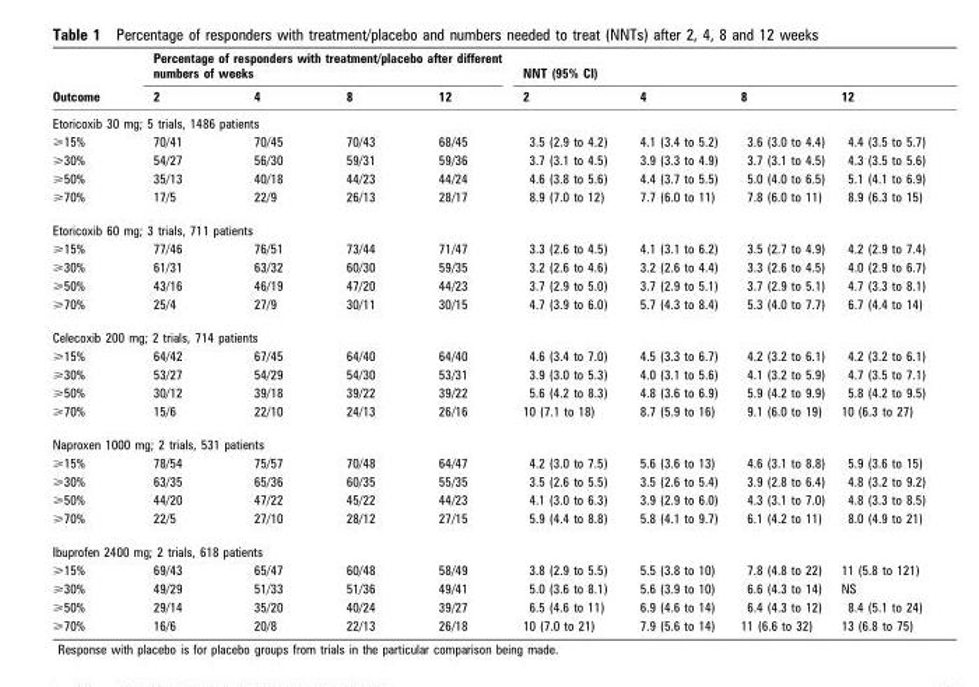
<table><thead><tr><td rowspan="2">Outcome</td><td colspan="4">Percentage of responders with treatment/placebo after different numbers of weeks</td><td colspan="4">NNT (95% CI)</td></tr><tr><td>2</td><td>4</td><td>8</td><td>12</td><td>2</td><td>4</td><td>8</td><td>12</td></tr></thead><tbody><tr><td colspan="9">Etoricoxib 30 mg; 5 trials, 1486 patients</td></tr><tr><td>&gt;15%</td><td>70/41</td><td>70/45</td><td>70/43</td><td>68/45</td><td>3.5 (2.9 to 4.2)</td><td>4.1 (3.4 to 5.2)</td><td>3.6 (3.0 to 4.4)</td><td>4.4 (3.5 to 5.7)</td></tr><tr><td>&gt;30%</td><td>54/27</td><td>56/30</td><td>59/31</td><td>59/36</td><td>3.7 (3.1 to 4.5)</td><td>3.9 (3.3 to 4.9)</td><td>3.7 (3.1 to 4.5)</td><td>4.3 (3.5 to 5.6)</td></tr><tr><td>&gt;50%</td><td>35/13</td><td>40/18</td><td>44/23</td><td>44/24</td><td>4.6 (3.8 to 5.6)</td><td>4.4 (3.7 to 5.5)</td><td>5.0 (4.0 to 6.5)</td><td>5.1 (4.1 to 6.9)</td></tr><tr><td>&gt;70%</td><td>17/5</td><td>22/9</td><td>26/13</td><td>28/17</td><td>8.9 (7.0 to 12)</td><td>7.7 (6.0 to 11)</td><td>7.8 (6.0 to 11)</td><td>8.9 (6.3 to 15)</td></tr><tr><td colspan="9">Etoricoxib 60 mg; 3 trials, 711 patients</td></tr><tr><td>&gt;15%</td><td>77/46</td><td>76/51</td><td>73/44</td><td>71/47</td><td>3.3 (2.6 to 4.5)</td><td>4.1 (3.1 to 6.2)</td><td>3.5 (2.7 to 4.9)</td><td>4.2 (2.9 to 7.4)</td></tr><tr><td>&gt;30%</td><td>61/31</td><td>63/32</td><td>60/30</td><td>59/35</td><td>3.2 (2.6 to 4.6)</td><td>3.2 (2.6 to 4.4)</td><td>3.3 (2.6 to 4.5)</td><td>4.0 (2.9 to 6.7)</td></tr><tr><td>&gt;50%</td><td>43/16</td><td>46/19</td><td>47/20</td><td>44/23</td><td>3.7 (2.9 to 5.0)</td><td>3.7 (2.9 to 5.1)</td><td>3.7 (2.9 to 5.1)</td><td>4.7 (3.3 to 8.1)</td></tr><tr><td>&gt;70%</td><td>25/4</td><td>27/9</td><td>30/11</td><td>30/15</td><td>4.7 (3.9 to 6.0)</td><td>5.7 (4.3 to 8.4)</td><td>5.3 (4.0 to 7.7)</td><td>6.7 (4.4 to 14)</td></tr><tr><td colspan="9">Celecoxib 200 mg; 2 trials, 714 patients</td></tr><tr><td>&gt;15%</td><td>64/42</td><td>67/45</td><td>64/40</td><td>64/40</td><td>4.6 (3.4 to 7.0)</td><td>4.5 (3.3 to 6.7)</td><td>4.2 (3.2 to 6.1)</td><td>4.2 (3.2 to 6.1)</td></tr><tr><td>&gt;30%</td><td>53/27</td><td>54/29</td><td>54/30</td><td>53/31</td><td>3.9 (3.0 to 5.3)</td><td>4.0 (3.1 to 5.6)</td><td>4.1 (3.2 to 5.9)</td><td>4.7 (3.5 to 7.1)</td></tr><tr><td>&gt;50%</td><td>30/12</td><td>39/18</td><td>39/22</td><td>39/22</td><td>5.6 (4.2 to 8.3)</td><td>4.8 (3.6 to 6.9)</td><td>5.9 (4.2 to 9.9)</td><td>5.8 (4.2 to 9.5)</td></tr><tr><td>&gt;70%</td><td>15/6</td><td>22/10</td><td>24/13</td><td>26/16</td><td>10 (7.1 to 18)</td><td>8.7 (5.9 to 16)</td><td>9.1 (6.0 to 19)</td><td>10 (6.3 to 27)</td></tr><tr><td colspan="9">Naproxen 1000 mg; 2 trials, 531 patients</td></tr><tr><td>&gt;15%</td><td>78/54</td><td>75/57</td><td>70/48</td><td>64/47</td><td>4.2 (3.0 to 7.5)</td><td>5.6 (3.6 to 13)</td><td>4.6 (3.1 to 8.8)</td><td>5.9 (3.6 to 15)</td></tr><tr><td>&gt;30%</td><td>63/35</td><td>65/36</td><td>60/35</td><td>55/35</td><td>3.5 (2.6 to 5.5)</td><td>3.5 (2.6 to 5.4)</td><td>3.9 (2.8 to 6.4)</td><td>4.8 (3.2 to 9.2)</td></tr><tr><td>&gt;50%</td><td>44/20</td><td>47/22</td><td>45/22</td><td>44/23</td><td>4.1 (3.0 to 6.3)</td><td>3.9 (2.9 to 6.0)</td><td>4.3 (3.1 to 7.0)</td><td>4.8 (3.3 to 8.5)</td></tr><tr><td>&gt;70%</td><td>22/5</td><td>27/10</td><td>28/12</td><td>27/15</td><td>5.9 (4.4 to 8.8)</td><td>5.8 (4.1 to 9.7)</td><td>6.1 (4.2 to 11)</td><td>8.0 (4.9 to 21)</td></tr><tr><td colspan="9">Ibuprofen 2400 mg; 2 trials, 618 patients</td></tr><tr><td>&gt;15%</td><td>69/43</td><td>65/47</td><td>60/48</td><td>58/49</td><td>3.8 (2.9 to 5.5)</td><td>5.5 (3.8 to 10)</td><td>7.8 (4.8 to 22)</td><td>11 (5.8 to 121)</td></tr><tr><td>&gt;30%</td><td>49/29</td><td>51/33</td><td>51/36</td><td>49/41</td><td>5.0 (3.6 to 8.1)</td><td>5.6 (3.9 to 10)</td><td>6.6 (4.3 to 14)</td><td>NS</td></tr><tr><td>&gt;50%</td><td>29/14</td><td>35/20</td><td>40/24</td><td>39/27</td><td>6.5 (4.6 to 11)</td><td>6.9 (4.6 to 14)</td><td>6.4 (4.3 to 12)</td><td>8.4 (5.1 to 24)</td></tr><tr><td>&gt;70%</td><td>16/6</td><td>20/8</td><td>22/13</td><td>26/18</td><td>10 (7.0 to 21)</td><td>7.9 (5.6 to 14)</td><td>11 (6.6 to 32)</td><td>13 (6.8 to 75)</td></tr></tbody></table>